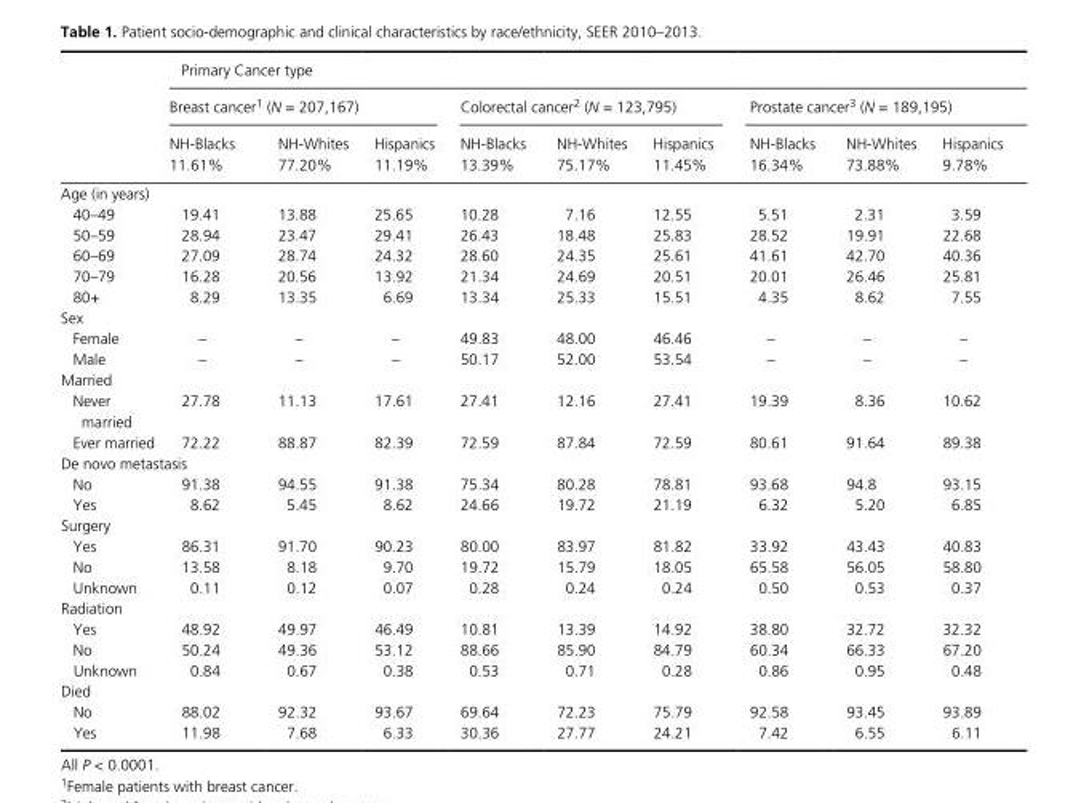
<table><thead><tr><td rowspan="3"></td><td colspan="9">Primary Cancer type</td></tr><tr><td colspan="3">Breast cancer1 (N = 207,167)</td><td colspan="3">Colorectal cancer2 (N = 123,795)</td><td colspan="3">Prostate cancer3 (N = 189,195)</td></tr><tr><td>NH- Blacks 11.61%</td><td>NH- Whites 77.20%</td><td>Hispanics 11.19%</td><td>NH- Blacks 13.39%</td><td>NH- Whites 75.17%</td><td>Hispanics 11.45%</td><td>NH- Blacks 16.34%</td><td>NH- Whites 73.88%</td><td>Hispanics 9.78%</td></tr></thead><tbody><tr><td colspan="10">Age (in years)</td></tr><tr><td>40–49</td><td>19.41</td><td>13.88</td><td>25.65</td><td>10.28</td><td>7.16</td><td>12.55</td><td>5.51</td><td>2.31</td><td>3.59</td></tr><tr><td>50–59</td><td>28.94</td><td>23.47</td><td>29.41</td><td>26.43</td><td>18.48</td><td>25.83</td><td>28.52</td><td>19.91</td><td>22.68</td></tr><tr><td>60–69</td><td>27.09</td><td>28.74</td><td>24.32</td><td>28.60</td><td>24.35</td><td>25.61</td><td>41.61</td><td>42.70</td><td>40.36</td></tr><tr><td>70–79</td><td>16.28</td><td>20.56</td><td>13.92</td><td>21.34</td><td>24.69</td><td>20.51</td><td>20.01</td><td>26.46</td><td>25.81</td></tr><tr><td>80+</td><td>8.29</td><td>13.35</td><td>6.69</td><td>13.34</td><td>25.33</td><td>15.51</td><td>4.35</td><td>8.62</td><td>7.55</td></tr><tr><td colspan="10">Sex</td></tr><tr><td>Female</td><td>–</td><td>–</td><td>–</td><td>49.83</td><td>48.00</td><td>46.46</td><td>–</td><td>–</td><td>–</td></tr><tr><td>Male</td><td>–</td><td>–</td><td>–</td><td>50.17</td><td>52.00</td><td>53.54</td><td>–</td><td>–</td><td>–</td></tr><tr><td colspan="10">Married</td></tr><tr><td>Never married</td><td>27.78</td><td>11.13</td><td>17.61</td><td>27.41</td><td>12.16</td><td>27.41</td><td>19.39</td><td>8.36</td><td>10.62</td></tr><tr><td>Ever married</td><td>72.22</td><td>88.87</td><td>82.39</td><td>72.59</td><td>87.84</td><td>72.59</td><td>80.61</td><td>91.64</td><td>89.38</td></tr><tr><td colspan="10">De novo metastasis</td></tr><tr><td>No</td><td>91.38</td><td>94.55</td><td>91.38</td><td>75.34</td><td>80.28</td><td>78.81</td><td>93.68</td><td>94.8</td><td>93.15</td></tr><tr><td>Yes</td><td>8.62</td><td>5.45</td><td>8.62</td><td>24.66</td><td>19.72</td><td>21.19</td><td>6.32</td><td>5.20</td><td>6.85</td></tr><tr><td colspan="10">Surgery</td></tr><tr><td>Yes</td><td>86.31</td><td>91.70</td><td>90.23</td><td>80.00</td><td>83.97</td><td>81.82</td><td>33.92</td><td>43.43</td><td>40.83</td></tr><tr><td>No</td><td>13.58</td><td>8.18</td><td>9.70</td><td>19.72</td><td>15.79</td><td>18.05</td><td>65.58</td><td>56.05</td><td>58.80</td></tr><tr><td>Unknown</td><td>0.11</td><td>0.12</td><td>0.07</td><td>0.28</td><td>0.24</td><td>0.24</td><td>0.50</td><td>0.53</td><td>0.37</td></tr><tr><td colspan="10">Radiation</td></tr><tr><td>Yes</td><td>48.92</td><td>49.97</td><td>46.49</td><td>10.81</td><td>13.39</td><td>14.92</td><td>38.80</td><td>32.72</td><td>32.32</td></tr><tr><td>No</td><td>50.24</td><td>49.36</td><td>53.12</td><td>88.66</td><td>85.90</td><td>84.79</td><td>60.34</td><td>66.33</td><td>67.20</td></tr><tr><td>Unknown</td><td>0.84</td><td>0.67</td><td>0.38</td><td>0.53</td><td>0.71</td><td>0.28</td><td>0.86</td><td>0.95</td><td>0.48</td></tr><tr><td colspan="10">Died</td></tr><tr><td>No</td><td>88.02</td><td>92.32</td><td>93.67</td><td>69.64</td><td>72.23</td><td>75.79</td><td>92.58</td><td>93.45</td><td>93.89</td></tr><tr><td>Yes</td><td>11.98</td><td>7.68</td><td>6.33</td><td>30.36</td><td>27.77</td><td>24.21</td><td>7.42</td><td>6.55</td><td>6.11</td></tr></tbody></table>